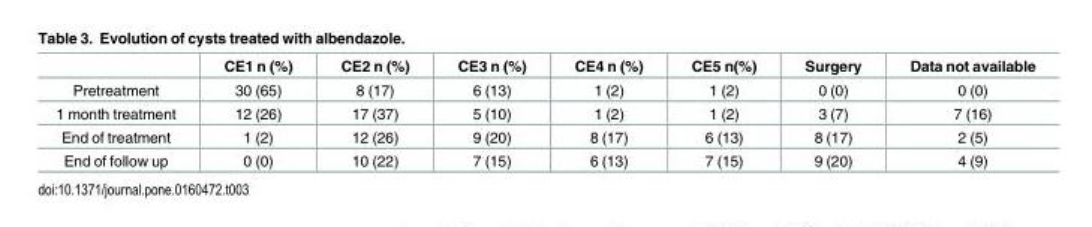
<table><thead><tr><td></td><td>CE1 n (%)</td><td>CE2 n (%)</td><td>CE3 n (%)</td><td>CE4 n (%)</td><td>CE5 n(%)</td><td>Surgery</td><td>Data not available</td></tr></thead><tbody><tr><td>Pretreatment</td><td>30 (65)</td><td>8 (17)</td><td>6 (13)</td><td>1 (2)</td><td>1 (2)</td><td>0 (0)</td><td>0 (0)</td></tr><tr><td>1 month treatment</td><td>12 (26)</td><td>17 (37)</td><td>5 (10)</td><td>1 (2)</td><td>1 (2)</td><td>3 (7)</td><td>7 (16)</td></tr><tr><td>End of treatment</td><td>1 (2)</td><td>12 (26)</td><td>9 (20)</td><td>8 (17)</td><td>6 (13)</td><td>8 (17)</td><td>2 (5)</td></tr><tr><td>End of follow up</td><td>0 (0)</td><td>10 (22)</td><td>7 (15)</td><td>6 (13)</td><td>7 (15)</td><td>9 (20)</td><td>4 (9)</td></tr></tbody></table>